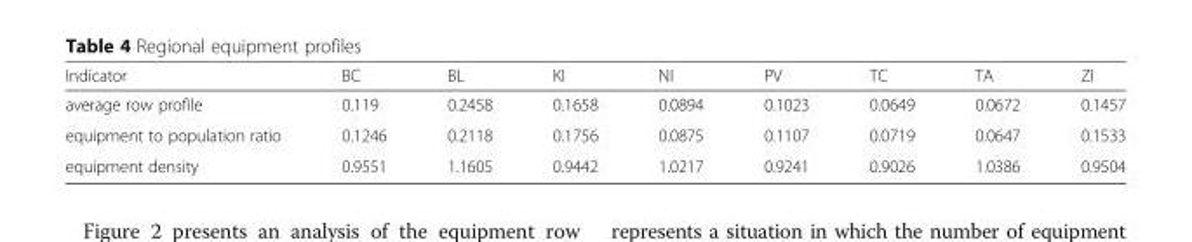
<table><thead><tr><td>Indicator</td><td>BC</td><td>BL</td><td>KI</td><td>NI</td><td>PV</td><td>TC</td><td>TA</td><td>ZI</td></tr></thead><tbody><tr><td>average row profile</td><td>0.119</td><td>0.2458</td><td>0.1658</td><td>0.0894</td><td>0.1023</td><td>0.0649</td><td>0.0672</td><td>0.1457</td></tr><tr><td>equipment to population ratio</td><td>0.1246</td><td>0.2118</td><td>0.1756</td><td>0.0875</td><td>0.1107</td><td>0.0719</td><td>0.0647</td><td>0.1533</td></tr><tr><td>equipment density</td><td>0.9551</td><td>1.1605</td><td>0.9442</td><td>1.0217</td><td>0.9241</td><td>0.9026</td><td>1.0386</td><td>0.9504</td></tr></tbody></table>